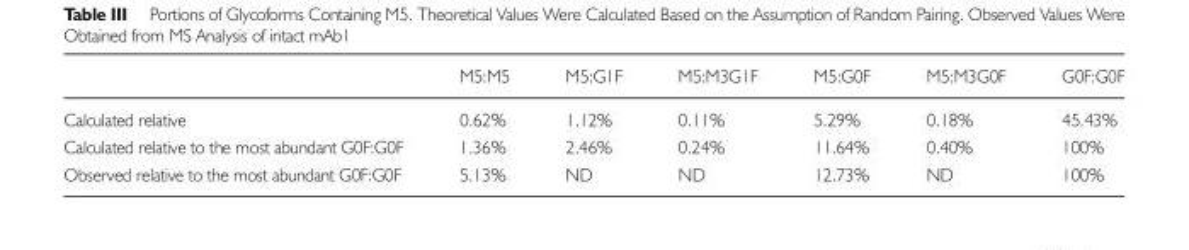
<table><thead><tr><td></td><td>M5:M5</td><td>M5:G1F</td><td>M5:M3G1F</td><td>M5:G0F</td><td>M5:M3G0F</td><td>G0F:G0F</td></tr></thead><tbody><tr><td>Calculated relative</td><td>0.62%</td><td>1.12%</td><td>0.11%</td><td>5.29%</td><td>0.18%</td><td>45.43%</td></tr><tr><td>Calculated relative to the most abundant G0F:G0F</td><td>1.36%</td><td>2.46%</td><td>0.24%</td><td>11.64%</td><td>0.40%</td><td>100%</td></tr><tr><td>Observed relative to the most abundant G0F:G0F</td><td>5.13%</td><td>ND</td><td>ND</td><td>12.73%</td><td>ND</td><td>100%</td></tr></tbody></table>